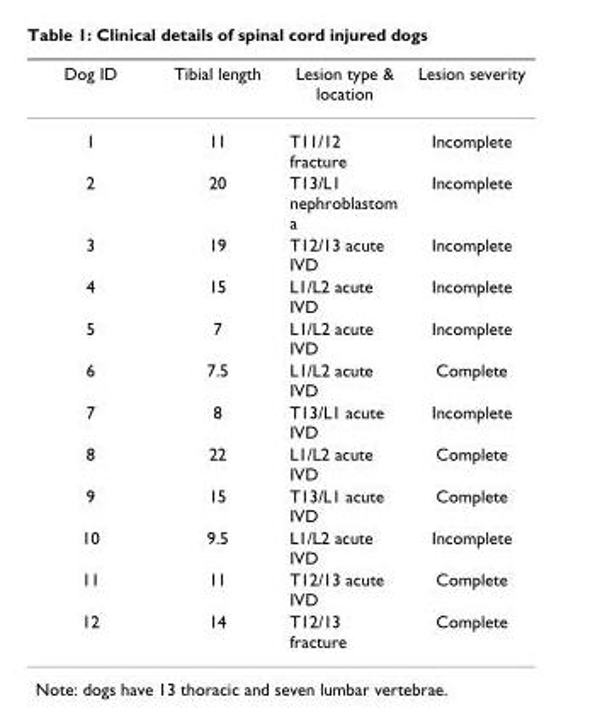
<table><thead><tr><td>Dog ID</td><td>Tibial length</td><td>Lesion type &amp; location</td><td>Lesion severity</td></tr></thead><tbody><tr><td>1</td><td>11</td><td>T11/12 fracture</td><td>Incomplete</td></tr><tr><td>2</td><td>20</td><td>T13/L1 nephroblastom a</td><td>Incomplete</td></tr><tr><td>3</td><td>19</td><td>T12/13 acute IVD</td><td>Incomplete</td></tr><tr><td>4</td><td>15</td><td>L1/L2 acute IVD</td><td>Incomplete</td></tr><tr><td>5</td><td>7</td><td>L1/L2 acute IVD</td><td>Incomplete</td></tr><tr><td>6</td><td>7.5</td><td>L1/L2 acute IVD</td><td>Complete</td></tr><tr><td>7</td><td>8</td><td>T13/L1 acute IVD</td><td>Incomplete</td></tr><tr><td>8</td><td>22</td><td>L1/L2 acute IVD</td><td>Complete</td></tr><tr><td>9</td><td>15</td><td>T13/L1 acute IVD</td><td>Complete</td></tr><tr><td>10</td><td>9.5</td><td>L1/L2 acute IVD</td><td>Incomplete</td></tr><tr><td>11</td><td>11</td><td>T12/13 acute IVD</td><td>Complete</td></tr><tr><td>12</td><td>14</td><td>T12/13 fracture</td><td>Complete</td></tr></tbody></table>